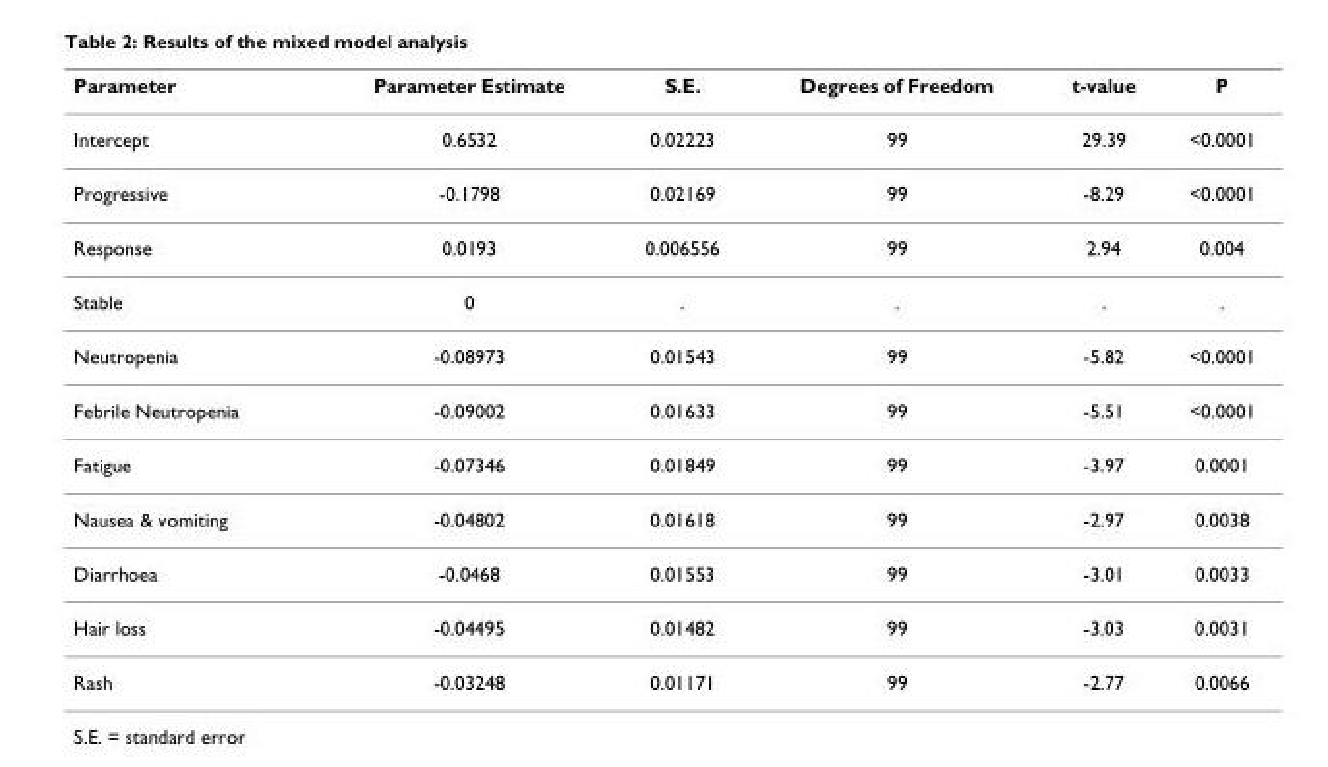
<table><thead><tr><td>Parameter</td><td>Parameter Estimate</td><td>S.E.</td><td>Degrees of Freedom</td><td>t-value</td><td>P</td></tr></thead><tbody><tr><td>Intercept</td><td>0.6532</td><td>0.02223</td><td>99</td><td>29.39</td><td>&lt;0.0001</td></tr><tr><td>Progressive</td><td>-0.1798</td><td>0.02169</td><td>99</td><td>-8.29</td><td>&lt;0.0001</td></tr><tr><td>Response</td><td>0.0193</td><td>0.006556</td><td>99</td><td>2.94</td><td>0.004</td></tr><tr><td>Stable</td><td>0</td><td>.</td><td>.</td><td>.</td><td>.</td></tr><tr><td>Neutropenia</td><td>-0.08973</td><td>0.01543</td><td>99</td><td>-5.82</td><td>&lt;0.0001</td></tr><tr><td>Febrile Neutropenia</td><td>-0.09002</td><td>0.01633</td><td>99</td><td>-5.51</td><td>&lt;0.0001</td></tr><tr><td>Fatigue</td><td>-0.07346</td><td>0.01849</td><td>99</td><td>-3.97</td><td>0.0001</td></tr><tr><td>Nausea &amp; vomiting</td><td>-0.04802</td><td>0.01618</td><td>99</td><td>-2.97</td><td>0.0038</td></tr><tr><td>Diarrhoea</td><td>-0.0468</td><td>0.01553</td><td>99</td><td>-3.01</td><td>0.0033</td></tr><tr><td>Hair loss</td><td>-0.04495</td><td>0.01482</td><td>99</td><td>-3.03</td><td>0.0031</td></tr><tr><td>Rash</td><td>-0.03248</td><td>0.01171</td><td>99</td><td>-2.77</td><td>0.0066</td></tr></tbody></table>